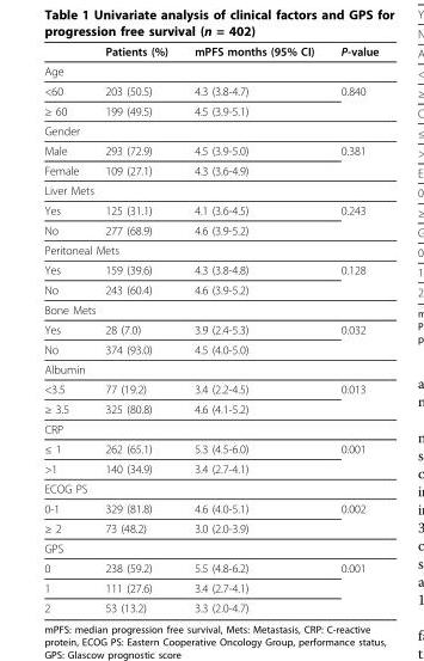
<table><thead><tr><td></td><td>Patients (%)</td><td>mPFS months (95% CI)</td><td>P-value</td></tr></thead><tbody><tr><td colspan="4">Age</td></tr><tr><td>&lt;60</td><td>203 (50.5)</td><td>4.3 (3.8-4.7)</td><td>0.840</td></tr><tr><td>≥ 60</td><td>199 (49.5)</td><td>4.5 (3.9-5.1)</td><td></td></tr><tr><td colspan="4">Gender</td></tr><tr><td>Male</td><td>293 (72.9)</td><td>4.5 (3.9-5.0)</td><td>0.381</td></tr><tr><td>Female</td><td>109 (27.1)</td><td>4.3 (3.6-4.9)</td><td></td></tr><tr><td colspan="4">Liver Mets</td></tr><tr><td>Yes</td><td>125 (31.1)</td><td>4.1 (3.6-4.5)</td><td>0.243</td></tr><tr><td>No</td><td>277 (68.9)</td><td>4.6 (3.9-5.2)</td><td></td></tr><tr><td colspan="4">Peritoneal Mets</td></tr><tr><td>Yes</td><td>159 (39.6)</td><td>4.3 (3.8-4.8)</td><td>0.128</td></tr><tr><td>No</td><td>243 (60.4)</td><td>4.6 (3.9-5.2)</td><td></td></tr><tr><td colspan="4">Bone Mets</td></tr><tr><td>Yes</td><td>28 (7.0)</td><td>3.9 (2.4-5.3)</td><td>0.032</td></tr><tr><td>No</td><td>374 (93.0)</td><td>4.5 (4.0-5.0)</td><td></td></tr><tr><td colspan="4">Albumin</td></tr><tr><td>&lt;3.5</td><td>77 (19.2)</td><td>3.4 (2.2-4.5)</td><td>0.013</td></tr><tr><td>≥ 3.5</td><td>325 (80.8)</td><td>4.6 (4.1-5.2)</td><td></td></tr><tr><td colspan="4">CRP</td></tr><tr><td>≤ 1</td><td>262 (65.1)</td><td>5.3 (4.5-6.0)</td><td>0.001</td></tr><tr><td>&gt;1</td><td>140 (34.9)</td><td>3.4 (2.7-4.1)</td><td></td></tr><tr><td colspan="4">ECOG PS</td></tr><tr><td>0-1</td><td>329 (81.8)</td><td>4.6 (4.0-5.1)</td><td>0.002</td></tr><tr><td>≥ 2</td><td>73 (48.2)</td><td>3.0 (2.0-3.9)</td><td></td></tr><tr><td colspan="4">GPS</td></tr><tr><td>0</td><td>238 (59.2)</td><td>5.5 (4.8-6.2)</td><td>0.001</td></tr><tr><td>1</td><td>111 (27.6)</td><td>3.4 (2.7-4.1)</td><td></td></tr><tr><td>2</td><td>53 (13.2)</td><td>3.3 (2.0-4.7)</td><td></td></tr></tbody></table>